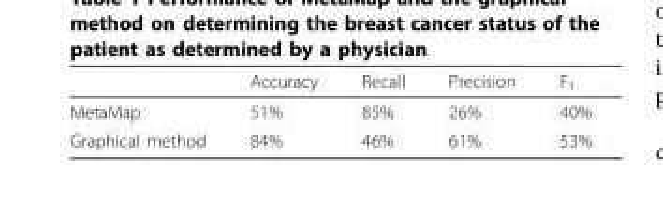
<table><thead><tr><td></td><td>Accuracy</td><td>Recall</td><td>Precision</td><td>F<sub>1</sub></td></tr></thead><tbody><tr><td>MetaMap</td><td>51%</td><td>85%</td><td>26%</td><td>40%</td></tr><tr><td>Graphical method</td><td>84%</td><td>46%</td><td>61%</td><td>53%</td></tr></tbody></table>